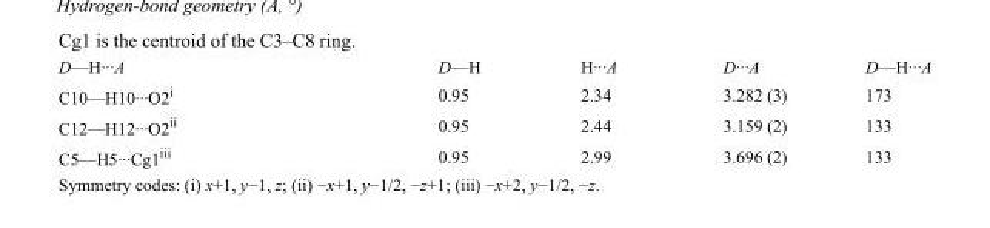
<table><tbody><tr><td>D—H···A</td><td>D—H</td><td>H···A</td><td>D···A</td><td>D—H···A</td></tr><tr><td>C10—H10···O2<sup>i</sup></td><td>0.95</td><td>2.34</td><td>3.282 (3)</td><td>173</td></tr><tr><td>C12—H12···O2<sup>ii</sup></td><td>0.95</td><td>2.44</td><td>3.159 (2)</td><td>133</td></tr><tr><td>C5—H5···Cg1<sup>iii</sup></td><td>0.95</td><td>2.99</td><td>3.696 (2)</td><td>133</td></tr></tbody></table>